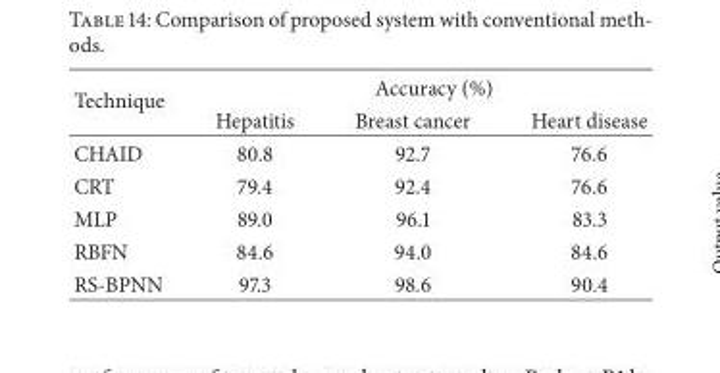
<table><thead><tr><td rowspan="2">Technique</td><td colspan="3">Accuracy (%)</td></tr><tr><td>Hepatitis</td><td>Breast cancer</td><td>Heart disease</td></tr></thead><tbody><tr><td>CHAID</td><td>80.8</td><td>92.7</td><td>76.6</td></tr><tr><td>CRT</td><td>79.4</td><td>92.4</td><td>76.6</td></tr><tr><td>MLP</td><td>89.0</td><td>96.1</td><td>83.3</td></tr><tr><td>RBFN</td><td>84.6</td><td>94.0</td><td>84.6</td></tr><tr><td>RS-BPNN</td><td>97.3</td><td>98.6</td><td>90.4</td></tr></tbody></table>